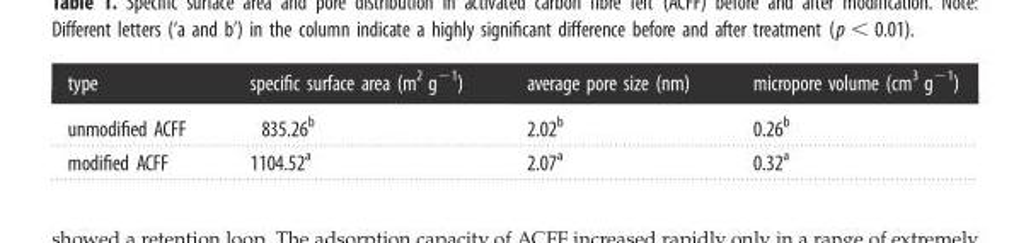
<table><thead><tr><td>type</td><td>specific surface area (m<sup>2</sup> g<sup>−1</sup>)</td><td>average pore size (nm)</td><td>micropore volume (cm<sup>3</sup> g<sup>−1</sup>)</td></tr></thead><tbody><tr><td>unmodified ACFF</td><td>835.26<sup>b</sup></td><td>2.02<sup>b</sup></td><td>0.26<sup>b</sup></td></tr><tr><td>modified ACFF</td><td>1104.52<sup>a</sup></td><td>2.07<sup>a</sup></td><td>0.32<sup>a</sup></td></tr></tbody></table>